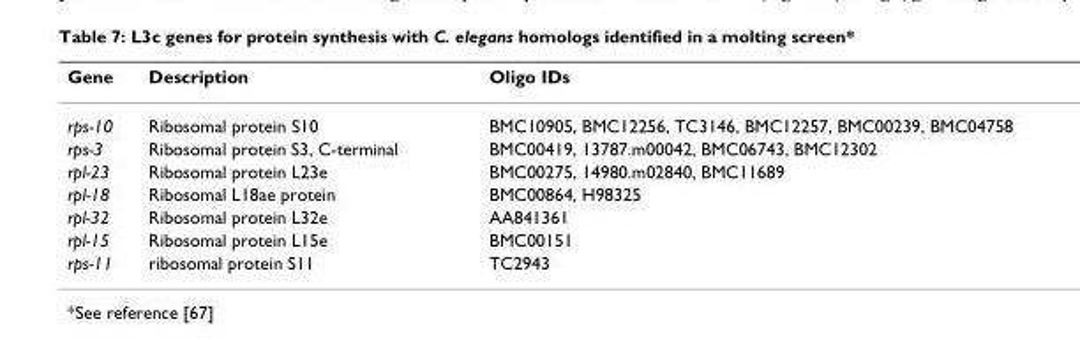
<table><thead><tr><td>Gene</td><td>Description</td><td>Oligo IDs</td></tr></thead><tbody><tr><td>rps-10</td><td>Ribosomal protein S10</td><td>BMC10905, BMC12256, TC3146, BMC12257, BMC00239, BMC04758</td></tr><tr><td>rps-3</td><td>Ribosomal protein S3, C-terminal</td><td>BMC00419, 13787.m00042, BMC06743, BMC12302</td></tr><tr><td>rpl-23</td><td>Ribosomal protein L23e</td><td>BMC00275, 14980.m02840, BMC11689</td></tr><tr><td>rpl-18</td><td>Ribosomal L18ae protein</td><td>BMC00864, H98325</td></tr><tr><td>rpl-32</td><td>Ribosomal protein L32e</td><td>AA841361</td></tr><tr><td>rpl-15</td><td>Ribosomal protein L15e</td><td>BMC00151</td></tr><tr><td>rps-11</td><td>ribosomal protein S11</td><td>TC2943</td></tr></tbody></table>